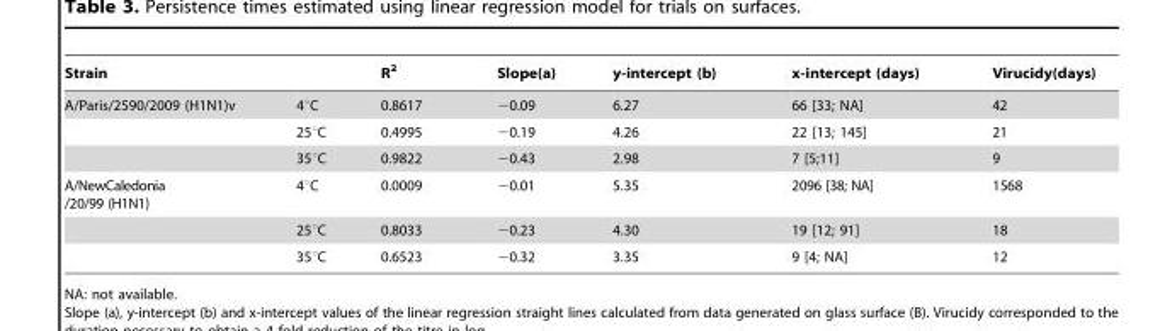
<table><thead><tr><td>Strain</td><td></td><td>R<sup>2</sup></td><td>Slope(a)</td><td>y-intercept (b)</td><td>x-intercept (days)</td><td>Virucidy(days)</td></tr></thead><tbody><tr><td rowspan="3">A/Paris/2590/2009 (H1N1)v</td><td>4°C</td><td>0.8617</td><td>−0.09</td><td>6.27</td><td>66 [33; NA]</td><td>42</td></tr><tr><td>25°C</td><td>0.4995</td><td>−0.19</td><td>4.26</td><td>22 [13; 145]</td><td>21</td></tr><tr><td>35°C</td><td>0.9822</td><td>−0.43</td><td>2.98</td><td>7 [5;11]</td><td>9</td></tr><tr><td rowspan="3">A/NewCaledonia /20/99 (H1N1)</td><td>4°C</td><td>0.0009</td><td>−0.01</td><td>5.35</td><td>2096 [38; NA]</td><td>1568</td></tr><tr><td>25°C</td><td>0.8033</td><td>−0.23</td><td>4.30</td><td>19 [12; 91]</td><td>18</td></tr><tr><td>35°C</td><td>0.6523</td><td>−0.32</td><td>3.35</td><td>9 [4; NA]</td><td>12</td></tr></tbody></table>